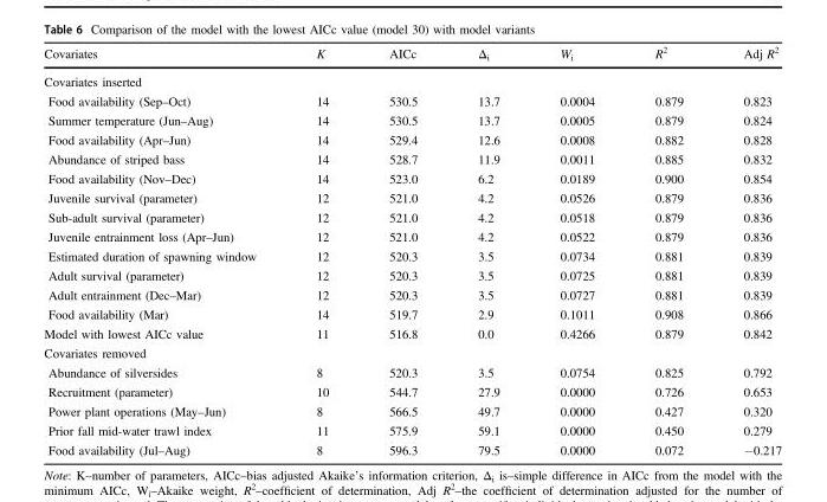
<table><thead><tr><td>Covariates</td><td>K</td><td>AICc</td><td>Δ<sub>i</sub></td><td>W<sub>i</sub></td><td>R<sup>2</sup></td><td>Adj R<sup>2</sup></td></tr></thead><tbody><tr><td colspan="7">Covariates inserted</td></tr><tr><td>Food availability (Sep–Oct)</td><td>14</td><td>530.5</td><td>13.7</td><td>0.0004</td><td>0.879</td><td>0.823</td></tr><tr><td>Summer temperature (Jun–Aug)</td><td>14</td><td>530.5</td><td>13.7</td><td>0.0005</td><td>0.879</td><td>0.824</td></tr><tr><td>Food availability (Apr–Jun)</td><td>14</td><td>529.4</td><td>12.6</td><td>0.0008</td><td>0.882</td><td>0.828</td></tr><tr><td>Abundance of striped bass</td><td>14</td><td>528.7</td><td>11.9</td><td>0.0011</td><td>0.885</td><td>0.832</td></tr><tr><td>Food availability (Nov–Dec)</td><td>14</td><td>523.0</td><td>6.2</td><td>0.0189</td><td>0.900</td><td>0.854</td></tr><tr><td>Juvenile survival (parameter)</td><td>12</td><td>521.0</td><td>4.2</td><td>0.0526</td><td>0.879</td><td>0.836</td></tr><tr><td>Sub-adult survival (parameter)</td><td>12</td><td>521.0</td><td>4.2</td><td>0.0518</td><td>0.879</td><td>0.836</td></tr><tr><td>Juvenile entrainment loss (Apr–Jun)</td><td>12</td><td>521.0</td><td>4.2</td><td>0.0522</td><td>0.879</td><td>0.836</td></tr><tr><td>Estimated duration of spawning window</td><td>12</td><td>520.3</td><td>3.5</td><td>0.0734</td><td>0.881</td><td>0.839</td></tr><tr><td>Adult survival (parameter)</td><td>12</td><td>520.3</td><td>3.5</td><td>0.0725</td><td>0.881</td><td>0.839</td></tr><tr><td>Adult entrainment (Dec–Mar)</td><td>12</td><td>520.3</td><td>3.5</td><td>0.0727</td><td>0.881</td><td>0.839</td></tr><tr><td>Food availability (Mar)</td><td>14</td><td>519.7</td><td>2.9</td><td>0.1011</td><td>0.908</td><td>0.866</td></tr><tr><td>Model with lowest AICc value</td><td>11</td><td>516.8</td><td>0.0</td><td>0.4266</td><td>0.879</td><td>0.842</td></tr><tr><td colspan="7">Covariates removed</td></tr><tr><td>Abundance of silversides</td><td>8</td><td>520.3</td><td>3.5</td><td>0.0754</td><td>0.825</td><td>0.792</td></tr><tr><td>Recruitment (parameter)</td><td>10</td><td>544.7</td><td>27.9</td><td>0.0000</td><td>0.726</td><td>0.653</td></tr><tr><td>Power plant operations (May–Jun)</td><td>8</td><td>566.5</td><td>49.7</td><td>0.0000</td><td>0.427</td><td>0.320</td></tr><tr><td>Prior fall mid-water trawl index</td><td>11</td><td>575.9</td><td>59.1</td><td>0.0000</td><td>0.450</td><td>0.279</td></tr><tr><td>Food availability (Jul–Aug)</td><td>8</td><td>596.3</td><td>79.5</td><td>0.0000</td><td>0.072</td><td>−0.217</td></tr></tbody></table>